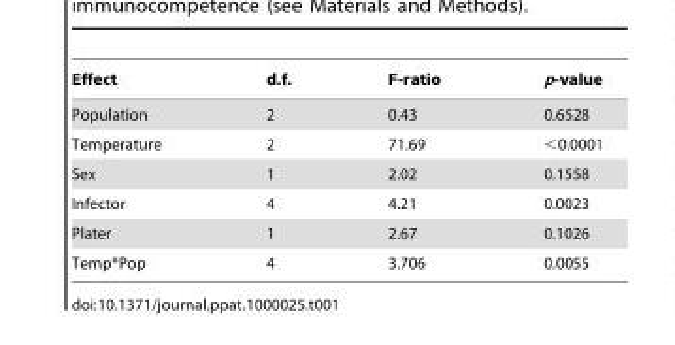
<table><thead><tr><td>Effect</td><td>d.f.</td><td>F-ratio</td><td>p-value</td></tr></thead><tbody><tr><td>Population</td><td>2</td><td>0.43</td><td>0.6528</td></tr><tr><td>Temperature</td><td>2</td><td>71.69</td><td>&lt;0.0001</td></tr><tr><td>Sex</td><td>1</td><td>2.02</td><td>0.1558</td></tr><tr><td>Infector</td><td>4</td><td>4.21</td><td>0.0023</td></tr><tr><td>Plater</td><td>1</td><td>2.67</td><td>0.1026</td></tr><tr><td>Temp*Pop</td><td>4</td><td>3.706</td><td>0.0055</td></tr></tbody></table>